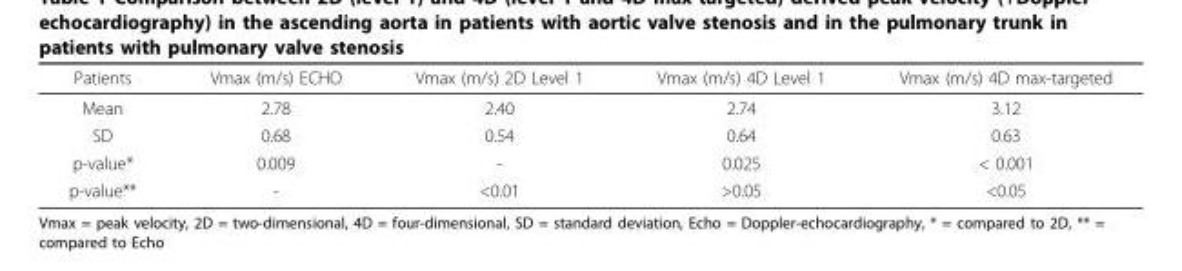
<table><thead><tr><td>Patients</td><td>Vmax (m/s) ECHO</td><td>Vmax (m/s) 2D Level 1</td><td>Vmax (m/s) 4D Level 1</td><td>Vmax (m/s) 4D max-targeted</td></tr></thead><tbody><tr><td>Mean</td><td>2.78</td><td>2.40</td><td>2.74</td><td>3.12</td></tr><tr><td>SD</td><td>0.68</td><td>0.54</td><td>0.64</td><td>0.63</td></tr><tr><td>p-value*</td><td>0.009</td><td>-</td><td>0.025</td><td>&lt; 0.001</td></tr><tr><td>p-value**</td><td>-</td><td>&lt;0.01</td><td>&gt;0.05</td><td>&lt;0.05</td></tr></tbody></table>